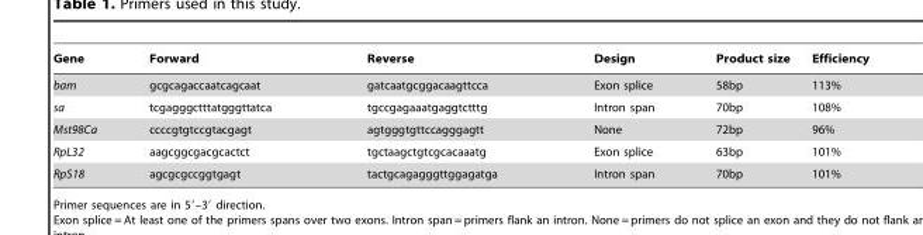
<table><thead><tr><td>Gene</td><td>Forward</td><td>Reverse</td><td>Design</td><td>Product size</td><td>Efficiency</td></tr></thead><tbody><tr><td>bam</td><td>gcgcagaccaatcagcaat</td><td>gatcaatgcggacaagttcca</td><td>Exon splice</td><td>58bp</td><td>113%</td></tr><tr><td>sa</td><td>tcgagggctttatgggttatca</td><td>tgccgagaaatgaggtctttg</td><td>Intron span</td><td>70bp</td><td>108%</td></tr><tr><td>Mst98Ca</td><td>ccccgtgtccgtacgagt</td><td>agtgggtgttccagggagtt</td><td>None</td><td>72bp</td><td>96%</td></tr><tr><td>RpL32</td><td>aagcggcgacgcactct</td><td>tgctaagctgtcgcacaaatg</td><td>Exon splice</td><td>63bp</td><td>101%</td></tr><tr><td>RpS18</td><td>agcgcgccggtgagt</td><td>tactgcagagggttggagatga</td><td>Intron span</td><td>70bp</td><td>101%</td></tr></tbody></table>